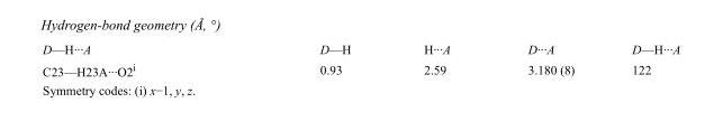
<table><tbody><tr><td>D—H···A</td><td>D—H</td><td>H···A</td><td>D···A</td><td>D—H···A</td></tr><tr><td>C23—H23A···O2<sup>i</sup></td><td>0.93</td><td>2.59</td><td>3.180 (8)</td><td>122</td></tr></tbody></table>